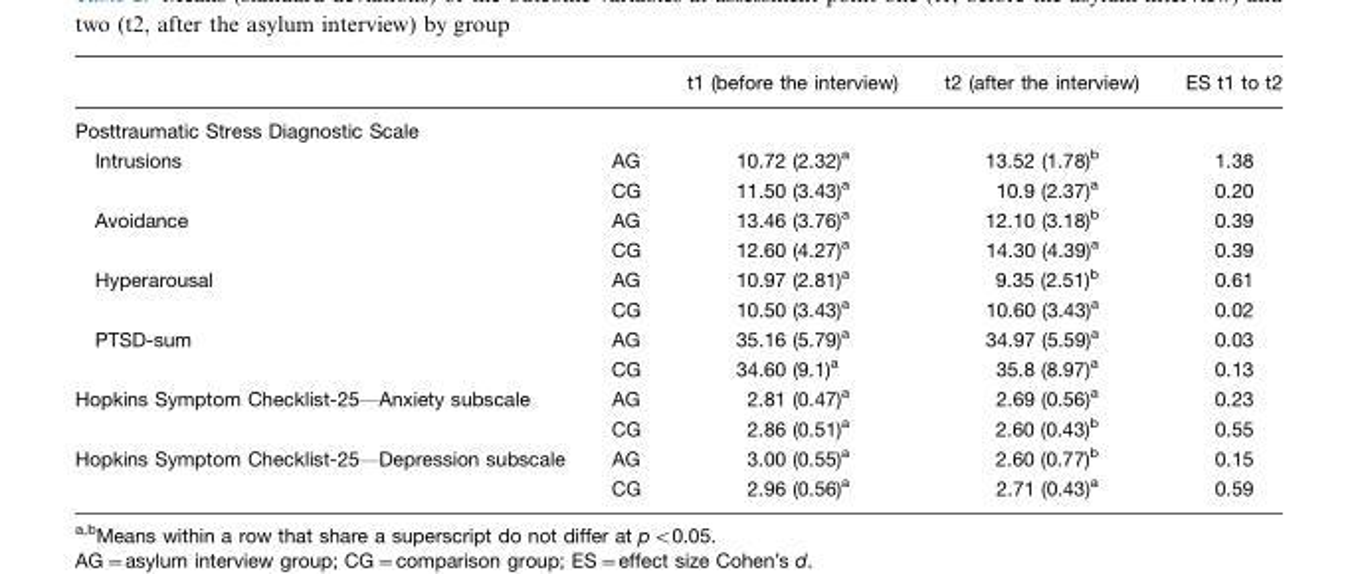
<table><thead><tr><td></td><td></td><td>t1 (before the interview)</td><td>t2 (after the interview)</td><td>ES t1 to t2</td></tr></thead><tbody><tr><td colspan="5">Posttraumatic Stress Diagnostic Scale</td></tr><tr><td rowspan="2">Intrusions</td><td>AG</td><td>10.72 (2.32)<sup>a</sup></td><td>13.52 (1.78)<sup>b</sup></td><td>1.38</td></tr><tr><td>CG</td><td>11.50 (3.43)<sup>a</sup></td><td>10.9 (2.37)<sup>a</sup></td><td>0.20</td></tr><tr><td rowspan="2">Avoidance</td><td>AG</td><td>13.46 (3.76)<sup>a</sup></td><td>12.10 (3.18)<sup>b</sup></td><td>0.39</td></tr><tr><td>CG</td><td>12.60 (4.27)<sup>a</sup></td><td>14.30 (4.39)<sup>a</sup></td><td>0.39</td></tr><tr><td rowspan="2">Hyperarousal</td><td>AG</td><td>10.97 (2.81)<sup>a</sup></td><td>9.35 (2.51)<sup>b</sup></td><td>0.61</td></tr><tr><td>CG</td><td>10.50 (3.43)<sup>a</sup></td><td>10.60 (3.43)<sup>a</sup></td><td>0.02</td></tr><tr><td rowspan="2">PTSD-sum</td><td>AG</td><td>35.16 (5.79)<sup>a</sup></td><td>34.97 (5.59)<sup>a</sup></td><td>0.03</td></tr><tr><td>CG</td><td>34.60 (9.1)<sup>a</sup></td><td>35.8 (8.97)<sup>a</sup></td><td>0.13</td></tr><tr><td rowspan="2">Hopkins Symptom Checklist-25*Anxiety subscale</td><td>AG</td><td>2.81 (0.47)<sup>a</sup></td><td>2.69 (0.56)<sup>a</sup></td><td>0.23</td></tr><tr><td>CG</td><td>2.86 (0.51)<sup>a</sup></td><td>2.60 (0.43)<sup>b</sup></td><td>0.55</td></tr><tr><td rowspan="2">Hopkins Symptom Checklist-25*Depression subscale</td><td>AG</td><td>3.00 (0.55)<sup>a</sup></td><td>2.60 (0.77)<sup>b</sup></td><td>0.15</td></tr><tr><td>CG</td><td>2.96 (0.56)<sup>a</sup></td><td>2.71 (0.43)<sup>a</sup></td><td>0.59</td></tr></tbody></table>